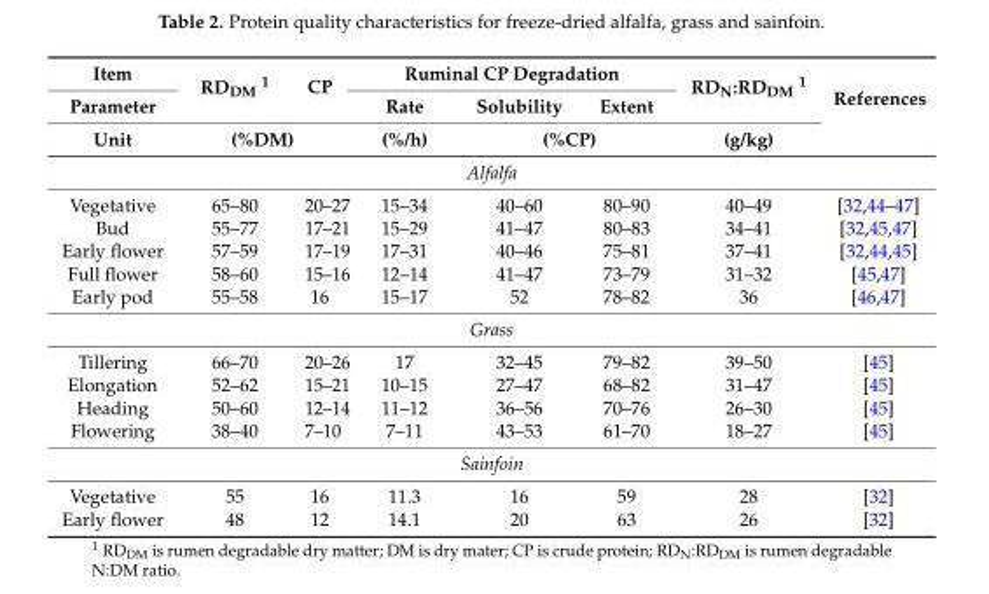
<table><thead><tr><td rowspan="3">Item Parameter Unit</td><td rowspan="2">RD<sub>DM</sub> <sup>1</sup></td><td rowspan="2">CP</td><td colspan="3">Ruminal CP Degradation</td><td rowspan="3">RD<sub>N</sub>:RD<sub>DM</sub> <sup>1</sup> (g/kg)</td><td rowspan="3">References</td></tr><tr><td rowspan="2">Rate (%/h)</td><td>Solubility</td><td>Extent</td></tr><tr><td colspan="2">(%DM)</td><td colspan="2">(%CP)</td></tr></thead><tbody><tr><td colspan="8">Alfalfa</td></tr><tr><td>Vegetative</td><td>65–80</td><td>20–27</td><td>15–34</td><td>40–60</td><td>80–90</td><td>40–49</td><td>[32,44–47]</td></tr><tr><td>Bud</td><td>55–77</td><td>17–21</td><td>15–29</td><td>41–47</td><td>80–83</td><td>34–41</td><td>[32,45,47]</td></tr><tr><td>Early flower</td><td>57–59</td><td>17–19</td><td>17–31</td><td>40–46</td><td>75–81</td><td>37–41</td><td>[32,44,45]</td></tr><tr><td>Full flower</td><td>58–60</td><td>15–16</td><td>12–14</td><td>41–47</td><td>73–79</td><td>31–32</td><td>[45,47]</td></tr><tr><td>Early pod</td><td>55–58</td><td>16</td><td>15–17</td><td>52</td><td>78–82</td><td>36</td><td>[46,47]</td></tr><tr><td colspan="8">Grass</td></tr><tr><td>Tillering</td><td>66–70</td><td>20–26</td><td>17</td><td>32–45</td><td>79–82</td><td>39–50</td><td>[45]</td></tr><tr><td>Elongation</td><td>52–62</td><td>15–21</td><td>10–15</td><td>27–47</td><td>68–82</td><td>31–47</td><td>[45]</td></tr><tr><td>Heading</td><td>50–60</td><td>12–14</td><td>11–12</td><td>36–56</td><td>70–76</td><td>26–30</td><td>[45]</td></tr><tr><td>Flowering</td><td>38–40</td><td>7–10</td><td>7–11</td><td>43–53</td><td>61–70</td><td>18–27</td><td>[45]</td></tr><tr><td colspan="8">Sainfoin</td></tr><tr><td>Vegetative</td><td>55</td><td>16</td><td>11.3</td><td>16</td><td>59</td><td>28</td><td>[32]</td></tr><tr><td>Early flower</td><td>48</td><td>12</td><td>14.1</td><td>20</td><td>63</td><td>26</td><td>[32]</td></tr></tbody></table>